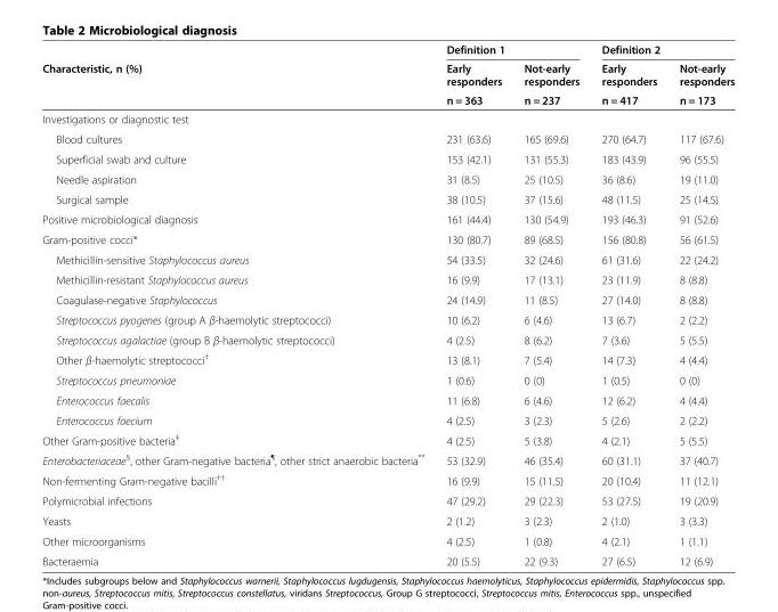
<table><thead><tr><td rowspan="3">Characteristic, n (%)</td><td colspan="2">Definition 1</td><td colspan="2">Definition 2</td></tr><tr><td rowspan="2">Early responders n = 363</td><td rowspan="2">Not-early responders n = 237</td><td rowspan="2">Early responders n = 417</td><td rowspan="2">Not-early responders n = 173</td></tr><tr></tr></thead><tbody><tr><td colspan="5">Investigations or diagnostic test</td></tr><tr><td>Blood cultures</td><td>231 (63.6)</td><td>165 (69.6)</td><td>270 (64.7)</td><td>117 (67.6)</td></tr><tr><td>Superficial swab and culture</td><td>153 (42.1)</td><td>131 (55.3)</td><td>183 (43.9)</td><td>96 (55.5)</td></tr><tr><td>Needle aspiration</td><td>31 (8.5)</td><td>25 (10.5)</td><td>36 (8.6)</td><td>19 (11.0)</td></tr><tr><td>Surgical sample</td><td>38 (10.5)</td><td>37 (15.6)</td><td>48 (11.5)</td><td>25 (14.5)</td></tr><tr><td>Positive microbiological diagnosis</td><td>161 (44.4)</td><td>130 (54.9)</td><td>193 (46.3)</td><td>91 (52.6)</td></tr><tr><td>Gram-positive cocci*</td><td>130 (80.7)</td><td>89 (68.5)</td><td>156 (80.8)</td><td>56 (61.5)</td></tr><tr><td>Methicillin-sensitive Staphylococcus aureus</td><td>54 (33.5)</td><td>32 (24.6)</td><td>61 (31.6)</td><td>22 (24.2)</td></tr><tr><td>Methicillin-resistant Staphylococcus aureus</td><td>16 (9.9)</td><td>17 (13.1)</td><td>23 (11.9)</td><td>8 (8.8)</td></tr><tr><td>Coagulase-negative Staphylococcus</td><td>24 (14.9)</td><td>11 (8.5)</td><td>27 (14.0)</td><td>8 (8.8)</td></tr><tr><td>Streptococcus pyogenes (group A β-haemolytic streptococci)</td><td>10 (6.2)</td><td>6 (4.6)</td><td>13 (6.7)</td><td>2 (2.2)</td></tr><tr><td>Streptococcus agalactiae (group B β-haemolytic streptococci)</td><td>4 (2.5)</td><td>8 (6.2)</td><td>7 (3.6)</td><td>5 (5.5)</td></tr><tr><td>Other β-haemolytic streptococci<sup>†</sup></td><td>13 (8.1)</td><td>7 (5.4)</td><td>14 (7.3)</td><td>4 (4.4)</td></tr><tr><td>Streptococcus pneumoniae</td><td>1 (0.6)</td><td>0 (0)</td><td>1 (0.5)</td><td>0 (0)</td></tr><tr><td>Enterococcus faecalis</td><td>11 (6.8)</td><td>6 (4.6)</td><td>12 (6.2)</td><td>4 (4.4)</td></tr><tr><td>Enterococcus faecium</td><td>4 (2.5)</td><td>3 (2.3)</td><td>5 (2.6)</td><td>2 (2.2)</td></tr><tr><td>Other Gram-positive bacteria<sup>‡</sup></td><td>4 (2.5)</td><td>5 (3.8)</td><td>4 (2.1)</td><td>5 (5.5)</td></tr><tr><td>Enterobacteriaceae<sup>§</sup>, other Gram-negative bacteria<sup>¶</sup>, other strict anaerobic bacteria**</td><td>53 (32.9)</td><td>46 (35.4)</td><td>60 (31.1)</td><td>37 (40.7)</td></tr><tr><td>Non-fermenting Gram-negative bacilli<sup>††</sup></td><td>16 (9.9)</td><td>15 (11.5)</td><td>20 (10.4)</td><td>11 (12.1)</td></tr><tr><td>Polymicrobial infections</td><td>47 (29.2)</td><td>29 (22.3)</td><td>53 (27.5)</td><td>19 (20.9)</td></tr><tr><td>Yeasts</td><td>2 (1.2)</td><td>3 (2.3)</td><td>2 (1.0)</td><td>3 (3.3)</td></tr><tr><td>Other microorganisms</td><td>4 (2.5)</td><td>1 (0.8)</td><td>4 (2.1)</td><td>1 (1.1)</td></tr><tr><td>Bacteraemia</td><td>20 (5.5)</td><td>22 (9.3)</td><td>27 (6.5)</td><td>12 (6.9)</td></tr></tbody></table>